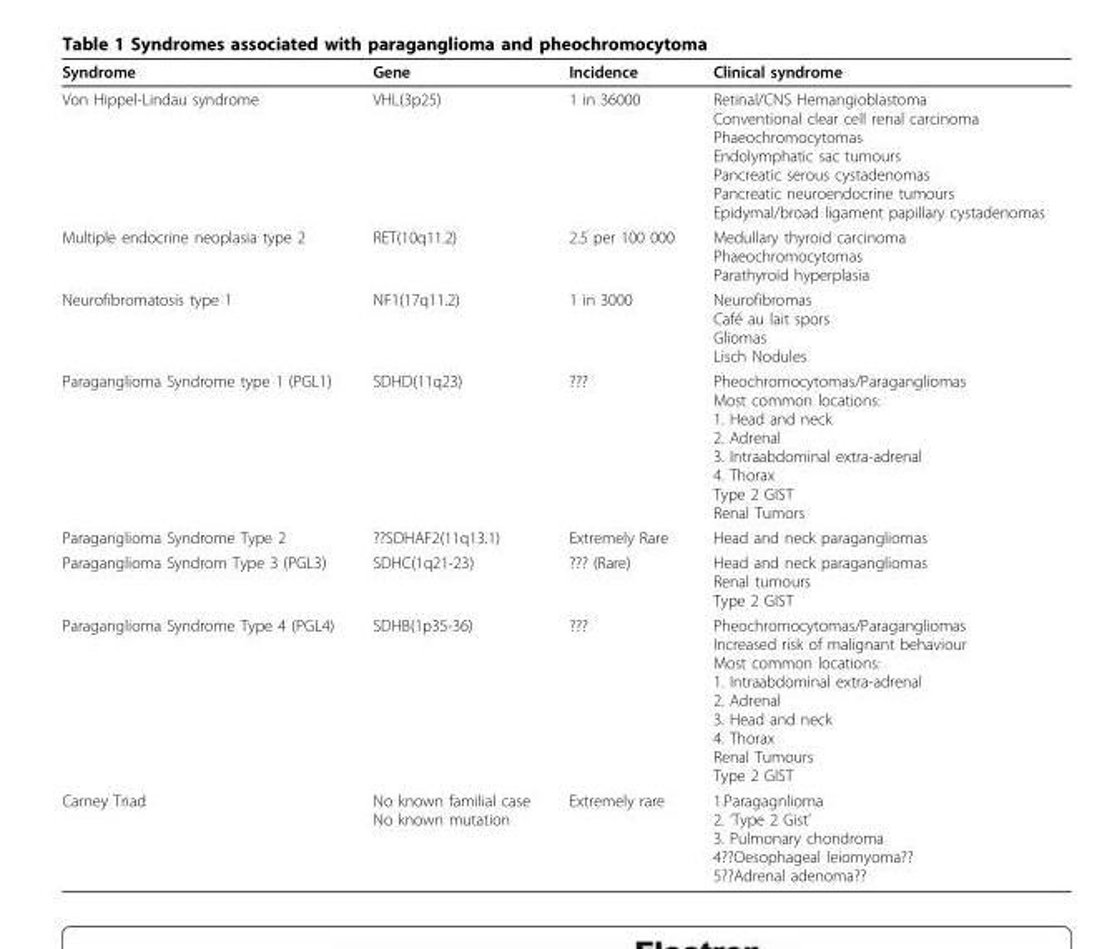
<table><thead><tr><td>Syndrome</td><td>Gene</td><td>Incidence</td><td>Clinical syndrome</td></tr></thead><tbody><tr><td>Von Hippel-Lindau syndrome</td><td>VHL(3p25)</td><td>1 in 36000</td><td>Retinal/CNS Hemangioblastoma Conventional clear cell renal carcinoma Phaeochromocytomas Endolymphatic sac tumours Pancreatic serous cystadenomas Pancreatic neuroendocrine tumours Epidymal/broad ligament papillary cystadenomas</td></tr><tr><td>Multiple endocrine neoplasia type 2</td><td>RET(10q11.2)</td><td>2.5 per 100 000</td><td>Medullary thyroid carcinoma Phaeochromocytomas Parathyroid hyperplasia</td></tr><tr><td>Neurofibromatosis type 1</td><td>NF1(17q11.2)</td><td>1 in 3000</td><td>Neurofibromas Café au lait spors Gliomas Lisch Nodules</td></tr><tr><td>Paraganglioma Syndrome type 1 (PGL1)</td><td>SDHD(11q23)</td><td>???</td><td>Pheochromocytomas/Paragangliomas Most common locations: 1. Head and neck 2. Adrenal 3. Intraabdominal extra-adrenal 4. Thorax Type 2 GIST Renal Tumors</td></tr><tr><td>Paraganglioma Syndrome Type 2</td><td>??SDHAF2(11q13.1)</td><td>Extremely Rare</td><td>Head and neck paragangliomas</td></tr><tr><td>Paraganglioma Syndrom Type 3 (PGL3)</td><td>SDHC(1q21-23)</td><td>??? (Rare)</td><td>Head and neck paragangliomas Renal tumours Type 2 GIST</td></tr><tr><td>Paraganglioma Syndrome Type 4 (PGL4)</td><td>SDHB(1p35-36)</td><td>???</td><td>Pheochromocytomas/Paragangliomas Increased risk of malignant behaviour Most common locations: 1. Intraabdominal extra-adrenal 2. Adrenal 3. Head and neck 4. Thorax Renal Tumours Type 2 GIST</td></tr><tr><td>Carney Triad</td><td>No known familial case No known mutation</td><td>Extremely rare</td><td>1.Paragagnlioma 2. ‘Type 2 Gist’ 3. Pulmonary chondroma 4??Oesophageal leiomyoma?? 5??Adrenal adenoma??</td></tr></tbody></table>